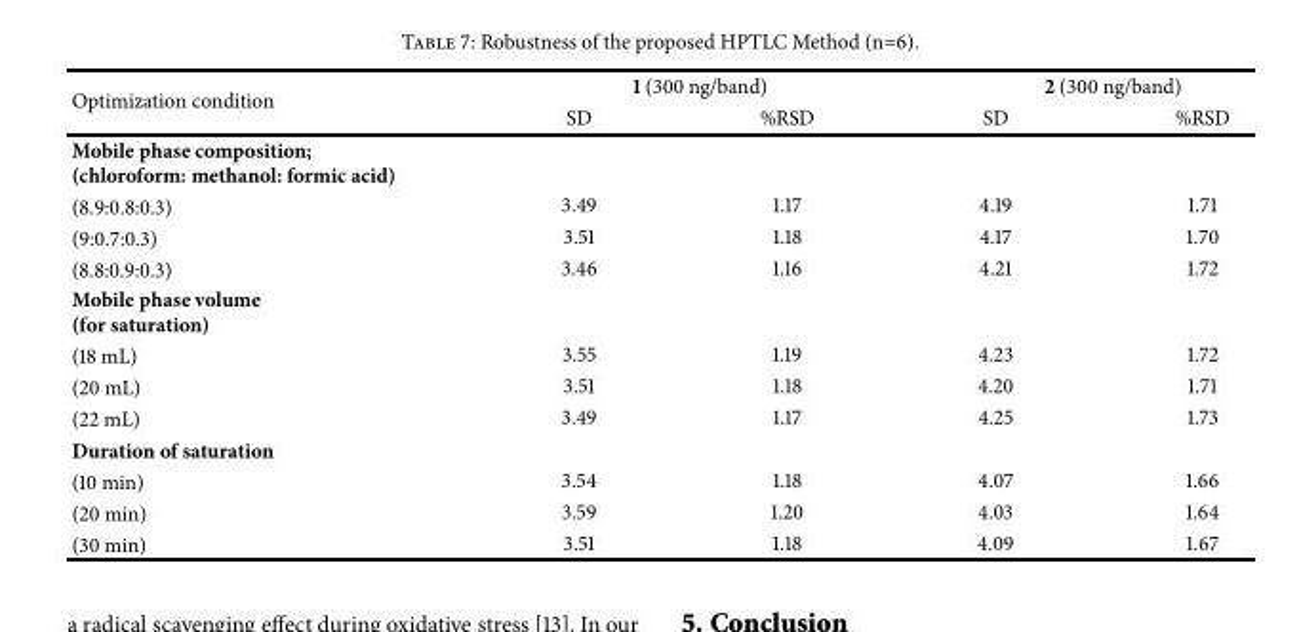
<table><thead><tr><td rowspan="2">Optimization condition</td><td colspan="2">1 (300 ng/band)</td><td colspan="2">2 (300 ng/band)</td></tr><tr><td>SD</td><td>%RSD</td><td>SD</td><td>%RSD</td></tr></thead><tbody><tr><td colspan="5">Mobile phase composition; (chloroform: methanol: formic acid)</td></tr><tr><td>(8.9:0.8:0.3)</td><td>3.49</td><td>1.17</td><td>4.19</td><td>1.71</td></tr><tr><td>(9:0.7:0.3)</td><td>3.51</td><td>1.18</td><td>4.17</td><td>1.70</td></tr><tr><td>(8.8:0.9:0.3)</td><td>3.46</td><td>1.16</td><td>4.21</td><td>1.72</td></tr><tr><td colspan="5">Mobile phase volume (for saturation)</td></tr><tr><td>(18 mL)</td><td>3.55</td><td>1.19</td><td>4.23</td><td>1.72</td></tr><tr><td>(20 mL)</td><td>3.51</td><td>1.18</td><td>4.20</td><td>1.71</td></tr><tr><td>(22 mL)</td><td>3.49</td><td>1.17</td><td>4.25</td><td>1.73</td></tr><tr><td colspan="5">Duration of saturation</td></tr><tr><td>(10 min)</td><td>3.54</td><td>1.18</td><td>4.07</td><td>1.66</td></tr><tr><td>(20 min)</td><td>3.59</td><td>1.20</td><td>4.03</td><td>1.64</td></tr><tr><td>(30 min)</td><td>3.51</td><td>1.18</td><td>4.09</td><td>1.67</td></tr></tbody></table>